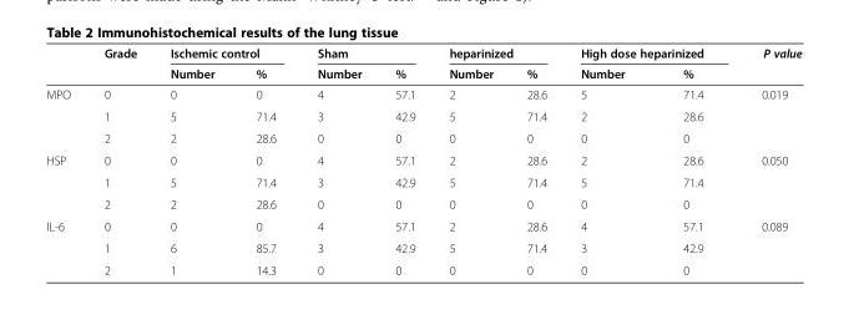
<table><thead><tr><td rowspan="2"></td><td rowspan="2">Grade</td><td colspan="2">Ischemic control</td><td colspan="2">Sham</td><td colspan="2">heparinized</td><td colspan="2">High dose heparinized</td><td rowspan="2">P value</td></tr><tr><td>Number</td><td>%</td><td>Number</td><td>%</td><td>Number</td><td>%</td><td>Number</td><td>%</td></tr></thead><tbody><tr><td rowspan="3">MPO</td><td>0</td><td>0</td><td>0</td><td>4</td><td>57.1</td><td>2</td><td>28.6</td><td>5</td><td>71.4</td><td rowspan="3">0.019</td></tr><tr><td>1</td><td>5</td><td>71.4</td><td>3</td><td>42.9</td><td>5</td><td>71.4</td><td>2</td><td>28.6</td></tr><tr><td>2</td><td>2</td><td>28.6</td><td>0</td><td>0</td><td>0</td><td>0</td><td>0</td><td>0</td></tr><tr><td rowspan="3">HSP</td><td>0</td><td>0</td><td>0</td><td>4</td><td>57.1</td><td>2</td><td>28.6</td><td>2</td><td>28.6</td><td rowspan="3">0.050</td></tr><tr><td>1</td><td>5</td><td>71.4</td><td>3</td><td>42.9</td><td>5</td><td>71.4</td><td>5</td><td>71.4</td></tr><tr><td>2</td><td>2</td><td>28.6</td><td>0</td><td>0</td><td>0</td><td>0</td><td>0</td><td>0</td></tr><tr><td rowspan="3">IL-6</td><td>0</td><td>0</td><td>0</td><td>4</td><td>57.1</td><td>2</td><td>28.6</td><td>4</td><td>57.1</td><td rowspan="3">0.089</td></tr><tr><td>1</td><td>6</td><td>85.7</td><td>3</td><td>42.9</td><td>5</td><td>71.4</td><td>3</td><td>42.9</td></tr><tr><td>2</td><td>1</td><td>14.3</td><td>0</td><td>0</td><td>0</td><td>0</td><td>0</td><td>0</td></tr></tbody></table>